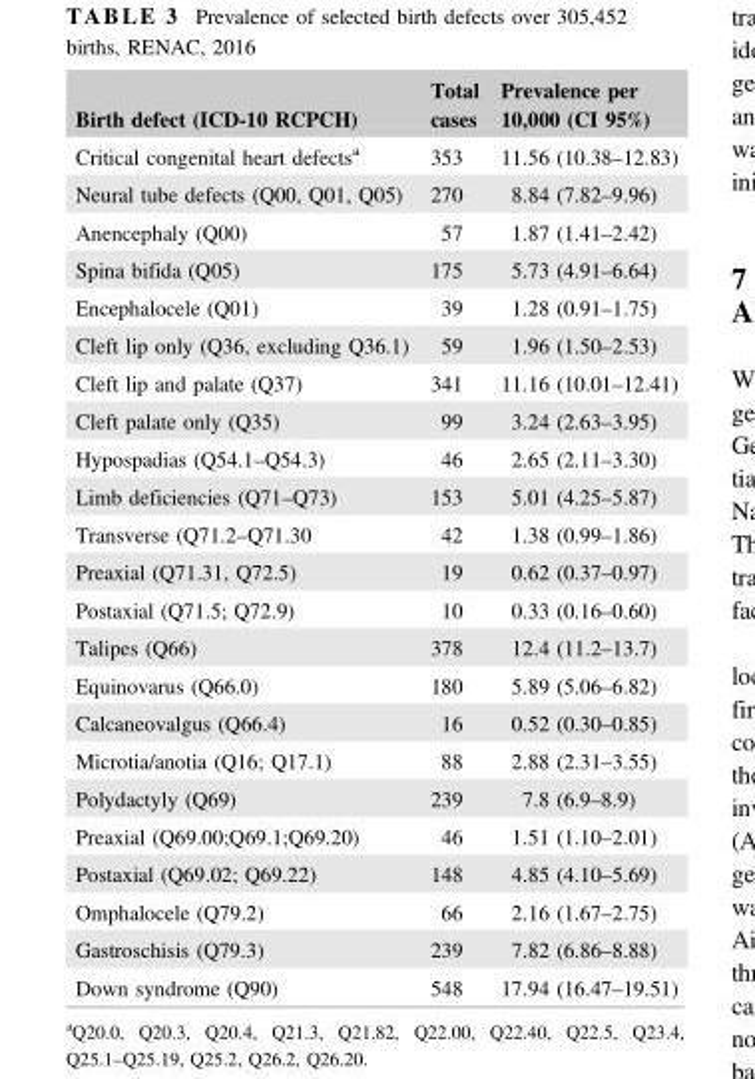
<table><thead><tr><td>Birth defect (ICD‐10 RCPCH)</td><td>Total cases</td><td>Prevalence per 10,000 (CI 95%)</td></tr></thead><tbody><tr><td>Critical congenital heart defects<sup>a</sup></td><td>353</td><td>11.56 (10.38–12.83)</td></tr><tr><td>Neural tube defects (Q00, Q01, Q05)</td><td>270</td><td>8.84 (7.82–9.96)</td></tr><tr><td>Anencephaly (Q00)</td><td>57</td><td>1.87 (1.41–2.42)</td></tr><tr><td>Spina bifida (Q05)</td><td>175</td><td>5.73 (4.91–6.64)</td></tr><tr><td>Encephalocele (Q01)</td><td>39</td><td>1.28 (0.91–1.75)</td></tr><tr><td>Cleft lip only (Q36, excluding Q36.1)</td><td>59</td><td>1.96 (1.50–2.53)</td></tr><tr><td>Cleft lip and palate (Q37)</td><td>341</td><td>11.16 (10.01–12.41)</td></tr><tr><td>Cleft palate only (Q35)</td><td>99</td><td>3.24 (2.63–3.95)</td></tr><tr><td>Hypospadias (Q54.1–Q54.3)</td><td>46</td><td>2.65 (2.11–3.30)</td></tr><tr><td>Limb deficiencies (Q71–Q73)</td><td>153</td><td>5.01 (4.25–5.87)</td></tr><tr><td>Transverse (Q71.2–Q71.30</td><td>42</td><td>1.38 (0.99–1.86)</td></tr><tr><td>Preaxial (Q71.31, Q72.5)</td><td>19</td><td>0.62 (0.37–0.97)</td></tr><tr><td>Postaxial (Q71.5; Q72.9)</td><td>10</td><td>0.33 (0.16–0.60)</td></tr><tr><td>Talipes (Q66)</td><td>378</td><td>12.4 (11.2–13.7)</td></tr><tr><td>Equinovarus (Q66.0)</td><td>180</td><td>5.89 (5.06–6.82)</td></tr><tr><td>Calcaneovalgus (Q66.4)</td><td>16</td><td>0.52 (0.30–0.85)</td></tr><tr><td>Microtia/anotia (Q16; Q17.1)</td><td>88</td><td>2.88 (2.31–3.55)</td></tr><tr><td>Polydactyly (Q69)</td><td>239</td><td>7.8 (6.9–8.9)</td></tr><tr><td>Preaxial (Q69.00;Q69.1;Q69.20)</td><td>46</td><td>1.51 (1.10–2.01)</td></tr><tr><td>Postaxial (Q69.02; Q69.22)</td><td>148</td><td>4.85 (4.10–5.69)</td></tr><tr><td>Omphalocele (Q79.2)</td><td>66</td><td>2.16 (1.67–2.75)</td></tr><tr><td>Gastroschisis (Q79.3)</td><td>239</td><td>7.82 (6.86–8.88)</td></tr><tr><td>Down syndrome (Q90)</td><td>548</td><td>17.94 (16.47–19.51)</td></tr></tbody></table>